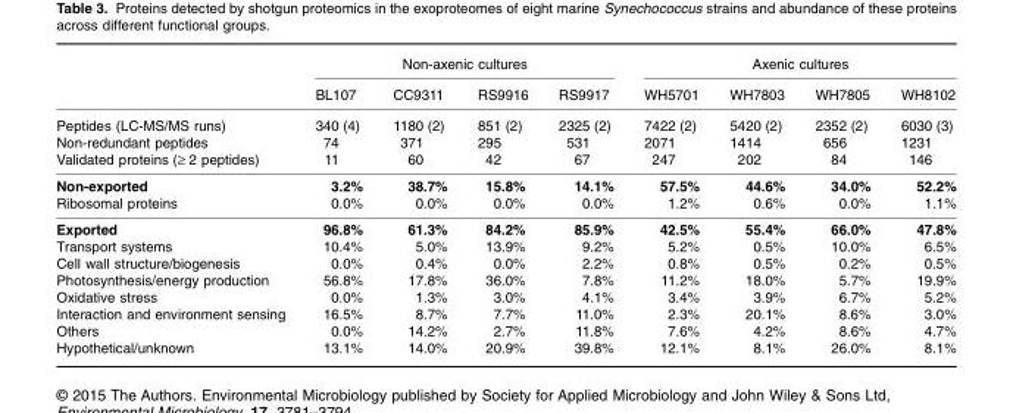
<table><thead><tr><td rowspan="2"></td><td colspan="4">Non-axenic cultures</td><td colspan="4">Axenic cultures</td></tr><tr><td>BL107</td><td>CC9311</td><td>RS9916</td><td>RS9917</td><td>WH5701</td><td>WH7803</td><td>WH7805</td><td>WH8102</td></tr></thead><tbody><tr><td>Peptides (LC-MS/MS runs)</td><td>340 (4)</td><td>1180 (2)</td><td>851 (2)</td><td>2325 (2)</td><td>7422 (2)</td><td>5420 (2)</td><td>2352 (2)</td><td>6030 (3)</td></tr><tr><td>Non-redundant peptides</td><td>74</td><td>371</td><td>295</td><td>531</td><td>2071</td><td>1414</td><td>656</td><td>1231</td></tr><tr><td>Validated proteins (≥ 2 peptides)</td><td>11</td><td>60</td><td>42</td><td>67</td><td>247</td><td>202</td><td>84</td><td>146</td></tr><tr><td>Non-exported</td><td>3.2%</td><td>38.7%</td><td>15.8%</td><td>14.1%</td><td>57.5%</td><td>44.6%</td><td>34.0%</td><td>52.2%</td></tr><tr><td>Ribosomal proteins</td><td>0.0%</td><td>0.0%</td><td>0.0%</td><td>0.0%</td><td>1.2%</td><td>0.6%</td><td>0.0%</td><td>1.1%</td></tr><tr><td>Exported</td><td>96.8%</td><td>61.3%</td><td>84.2%</td><td>85.9%</td><td>42.5%</td><td>55.4%</td><td>66.0%</td><td>47.8%</td></tr><tr><td>Transport systems</td><td>10.4%</td><td>5.0%</td><td>13.9%</td><td>9.2%</td><td>5.2%</td><td>0.5%</td><td>10.0%</td><td>6.5%</td></tr><tr><td>Cell wall structure/biogenesis</td><td>0.0%</td><td>0.4%</td><td>0.0%</td><td>2.2%</td><td>0.8%</td><td>0.5%</td><td>0.2%</td><td>0.5%</td></tr><tr><td>Photosynthesis/energy production</td><td>56.8%</td><td>17.8%</td><td>36.0%</td><td>7.8%</td><td>11.2%</td><td>18.0%</td><td>5.7%</td><td>19.9%</td></tr><tr><td>Oxidative stress</td><td>0.0%</td><td>1.3%</td><td>3.0%</td><td>4.1%</td><td>3.4%</td><td>3.9%</td><td>6.7%</td><td>5.2%</td></tr><tr><td>Interaction and environment sensing</td><td>16.5%</td><td>8.7%</td><td>7.7%</td><td>11.0%</td><td>2.3%</td><td>20.1%</td><td>8.6%</td><td>3.0%</td></tr><tr><td>Others</td><td>0.0%</td><td>14.2%</td><td>2.7%</td><td>11.8%</td><td>7.6%</td><td>4.2%</td><td>8.6%</td><td>4.7%</td></tr><tr><td>Hypothetical/unknown</td><td>13.1%</td><td>14.0%</td><td>20.9%</td><td>39.8%</td><td>12.1%</td><td>8.1%</td><td>26.0%</td><td>8.1%</td></tr></tbody></table>